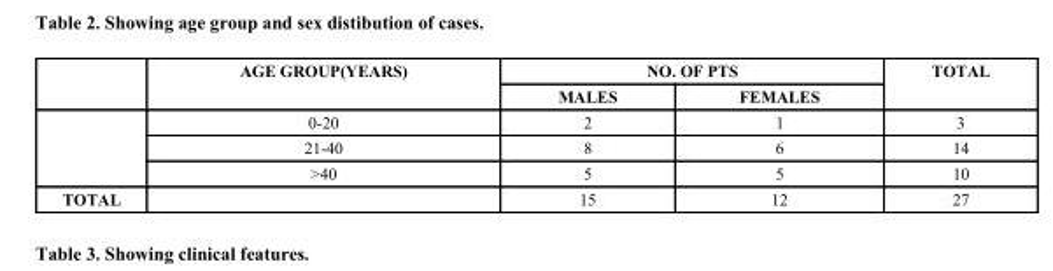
<table><thead><tr><td rowspan="2"></td><td rowspan="2">AGE GROUP(YEARS)</td><td colspan="2">NO. OF PTS</td><td rowspan="2">TOTAL</td></tr><tr><td>MALES</td><td>FEMALES</td></tr></thead><tbody><tr><td rowspan="3"></td><td>0-20</td><td>2</td><td>1</td><td>3</td></tr><tr><td>21-40</td><td>8</td><td>6</td><td>14</td></tr><tr><td>&gt;40</td><td>5</td><td>5</td><td>10</td></tr><tr><td>TOTAL</td><td></td><td>15</td><td>12</td><td>27</td></tr></tbody></table>